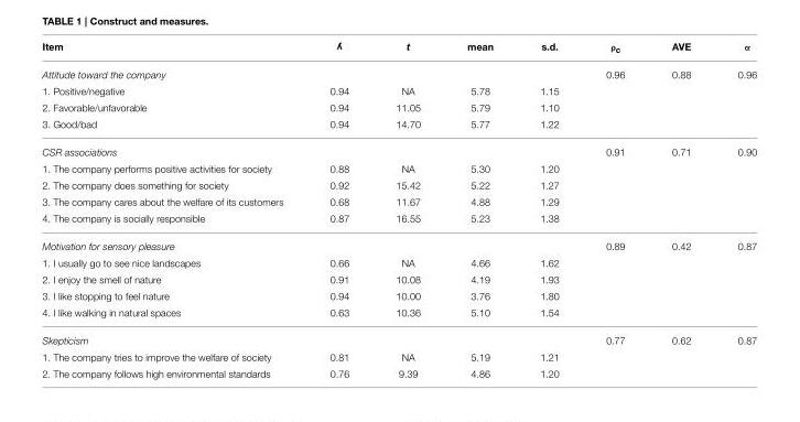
<table><thead><tr><td>Item</td><td><sup>y</sup></td><td>t</td><td>mean</td><td>s.d.</td><td>ρ<sub>c</sub></td><td>AVE</td><td>α</td></tr></thead><tbody><tr><td>Attitude toward the company</td><td></td><td></td><td></td><td></td><td>0.96</td><td>0.88</td><td>0.96</td></tr><tr><td>1. Positive/negative</td><td>0.94</td><td>NA</td><td>5.78</td><td>1.15</td><td></td><td></td><td></td></tr><tr><td>2. Favorable/unfavorable</td><td>0.94</td><td>11.05</td><td>5.79</td><td>1.10</td><td></td><td></td><td></td></tr><tr><td>3. Good/bad</td><td>0.94</td><td>14.70</td><td>5.77</td><td>1.22</td><td></td><td></td><td></td></tr><tr><td>CSR associations</td><td></td><td></td><td></td><td></td><td>0.91</td><td>0.71</td><td>0.90</td></tr><tr><td>1. The company performs positive activities for society</td><td>0.88</td><td>NA</td><td>5.30</td><td>1.20</td><td></td><td></td><td></td></tr><tr><td>2. The company does something for society</td><td>0.92</td><td>15.42</td><td>5.22</td><td>1.27</td><td></td><td></td><td></td></tr><tr><td>3. The company cares about the welfare of its customers</td><td>0.68</td><td>11.67</td><td>4.88</td><td>1.29</td><td></td><td></td><td></td></tr><tr><td>4. The company is socially responsible</td><td>0.87</td><td>16.55</td><td>5.23</td><td>1.38</td><td></td><td></td><td></td></tr><tr><td>Motivation for sensory pleasure</td><td></td><td></td><td></td><td></td><td>0.89</td><td>0.42</td><td>0.87</td></tr><tr><td>1. I usually go to see nice landscapes</td><td>0.66</td><td>NA</td><td>4.66</td><td>1.62</td><td></td><td></td><td></td></tr><tr><td>2. I enjoy the smell of nature</td><td>0.91</td><td>10.08</td><td>4.19</td><td>1.93</td><td></td><td></td><td></td></tr><tr><td>3. I like stopping to feel nature</td><td>0.94</td><td>10.00</td><td>3.76</td><td>1.80</td><td></td><td></td><td></td></tr><tr><td>4. I like walking in natural spaces</td><td>0.63</td><td>10.36</td><td>5.10</td><td>1.54</td><td></td><td></td><td></td></tr><tr><td>Skepticism</td><td></td><td></td><td></td><td></td><td>0.77</td><td>0.62</td><td>0.87</td></tr><tr><td>1. The company tries to improve the welfare of society</td><td>0.81</td><td>NA</td><td>5.19</td><td>1.21</td><td></td><td></td><td></td></tr><tr><td>2. The company follows high environmental standards</td><td>0.76</td><td>9.39</td><td>4.86</td><td>1.20</td><td></td><td></td><td></td></tr></tbody></table>